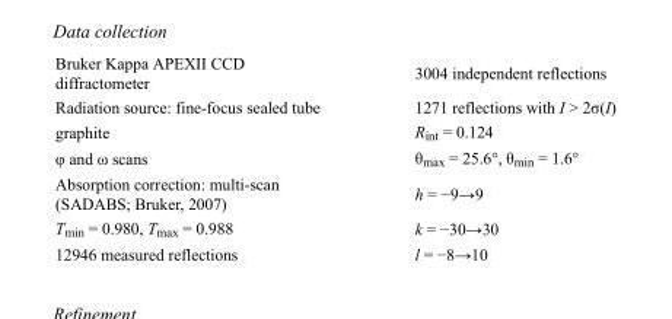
<table><tbody><tr><td>Bruker Kappa APEXII CCD diffractometer</td><td>3004 independent reflections</td></tr><tr><td>Radiation source: fine-focus sealed tube</td><td>1271 reflections with I &gt; 2σ(I)</td></tr><tr><td>graphite</td><td>R<sub>int</sub> = 0.124</td></tr><tr><td>φ and ω scans</td><td>θ<sub>max</sub> = 25.6°, θ<sub>min</sub> = 1.6°</td></tr><tr><td>Absorption correction: multi-scan (SADABS; Bruker, 2007)</td><td>h = −9→9</td></tr><tr><td>T<sub>min</sub> = 0.980, T<sub>max</sub> = 0.988</td><td>k = −30→30</td></tr><tr><td>12946 measured reflections</td><td>l = −8→10</td></tr></tbody></table>